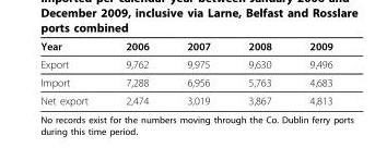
<table><thead><tr><td>Year</td><td>2006</td><td>2007</td><td>2008</td><td>2009</td></tr></thead><tbody><tr><td>Export</td><td>9,762</td><td>9,975</td><td>9,630</td><td>9,496</td></tr><tr><td>Import</td><td>7,288</td><td>6,956</td><td>5,763</td><td>4,683</td></tr><tr><td>Net export</td><td>2,474</td><td>3,019</td><td>3,867</td><td>4,813</td></tr></tbody></table>